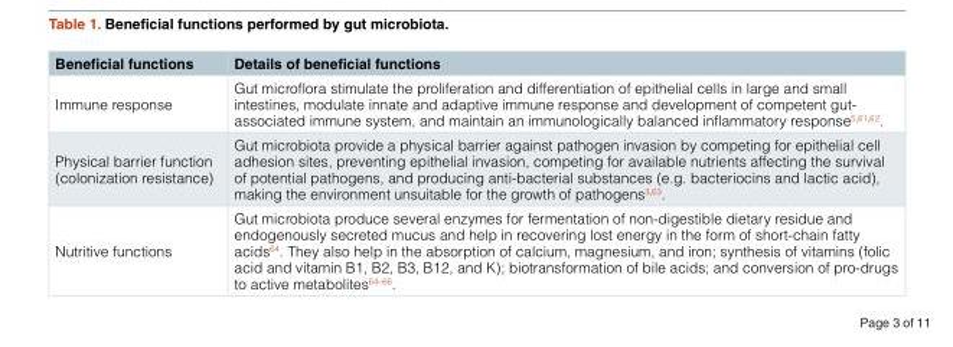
<table><thead><tr><td>Beneficial functions</td><td>Details of beneficial functions</td></tr></thead><tbody><tr><td>Immune response</td><td>Gut microflora stimulate the proliferation and differentiation of epithelial cells in large and small intestines, modulate innate and adaptive immune response and development of competent gut- associated immune system, and maintain an immunologically balanced inflammatory response<sup>5,61,62</sup>.</td></tr><tr><td>Physical barrier function (colonization resistance)</td><td>Gut microbiota provide a physical barrier against pathogen invasion by competing for epithelial cell adhesion sites, preventing epithelial invasion, competing for available nutrients affecting the survival of potential pathogens, and producing anti-bacterial substances (e.g. bacteriocins and lactic acid), making the environment unsuitable for the growth of pathogens<sup>3,63</sup>.</td></tr><tr><td>Nutritive functions</td><td>Gut microbiota produce several enzymes for fermentation of non-digestible dietary residue and endogenously secreted mucus and help in recovering lost energy in the form of short-chain fatty acids<sup>64</sup>. They also help in the absorption of calcium, magnesium, and iron; synthesis of vitamins (folic acid and vitamin B1, B2, B3, B12, and K); biotransformation of bile acids; and conversion of pro-drugs to active metabolites<sup>64–66</sup>.</td></tr></tbody></table>